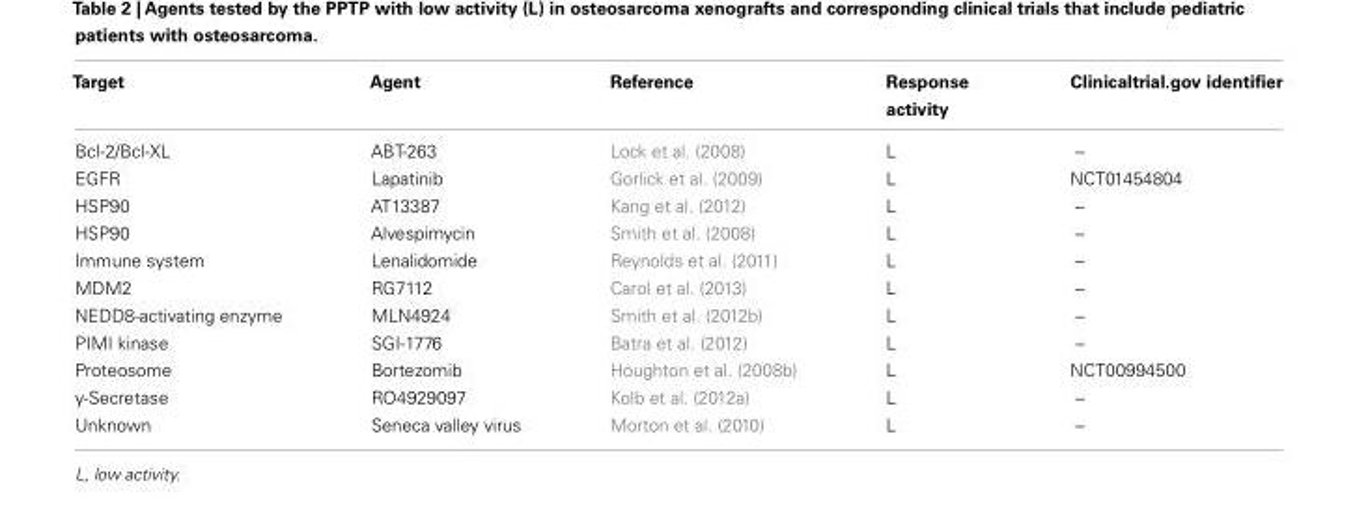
<table><thead><tr><td>Target</td><td>Agent</td><td>Reference</td><td>Response activity</td><td>Clinicaltrial.gov identifier</td></tr></thead><tbody><tr><td>Bcl-2/Bcl-XL</td><td>ABT-263</td><td>Lock et al. (2008)</td><td>L</td><td>–</td></tr><tr><td>EGFR</td><td>Lapatinib</td><td>Gorlick et al. (2009)</td><td>L</td><td>NCT01454804</td></tr><tr><td>HSP90</td><td>AT13387</td><td>Kang et al. (2012)</td><td>L</td><td>–</td></tr><tr><td>HSP90</td><td>Alvespimycin</td><td>Smith et al. (2008)</td><td>L</td><td>–</td></tr><tr><td>Immune system</td><td>Lenalidomide</td><td>Reynolds et al. (2011)</td><td>L</td><td>–</td></tr><tr><td>MDM2</td><td>RG7112</td><td>Carol et al. (2013)</td><td>L</td><td>–</td></tr><tr><td>NEDD8-activating enzyme</td><td>MLN4924</td><td>Smith et al. (2012b)</td><td>L</td><td>–</td></tr><tr><td>PIMI kinase</td><td>SGI-1776</td><td>Batra et al. (2012)</td><td>L</td><td>–</td></tr><tr><td>Proteosome</td><td>Bortezomib</td><td>Houghton et al. (2008b)</td><td>L</td><td>NCT00994500</td></tr><tr><td>y-Secretase</td><td>RO4929097</td><td>Kolb et al. (2012a)</td><td>L</td><td>–</td></tr><tr><td>Unknown</td><td>Seneca valley virus</td><td>Morton et al. (2010)</td><td>L</td><td>–</td></tr></tbody></table>